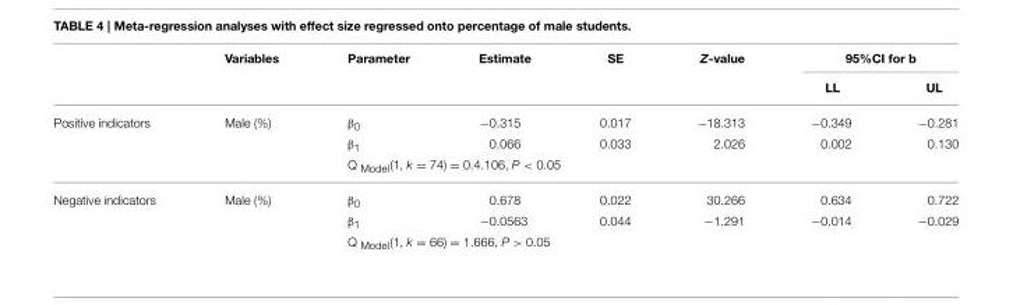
<table><thead><tr><td rowspan="2"></td><td rowspan="2">Variables</td><td rowspan="2">Parameter</td><td rowspan="2">Estimate</td><td rowspan="2">SE</td><td rowspan="2">Z-value</td><td colspan="2">95%CI for b</td></tr><tr><td>LL</td><td>UL</td></tr></thead><tbody><tr><td rowspan="3">Positive indicators</td><td>Male (%)</td><td>β<sub>0</sub></td><td>−0.315</td><td>0.017</td><td>−18.313</td><td>−0.349</td><td>−0.281</td></tr><tr><td></td><td>β<sub>1</sub></td><td>0.066</td><td>0.033</td><td>2.026</td><td>0.002</td><td>0.130</td></tr><tr><td></td><td colspan="6">Q <sub>Model</sub>(1, k = 74) = 0.4.106, P &lt; 0.05</td></tr><tr><td rowspan="3">Negative indicators</td><td>Male (%)</td><td>β<sub>0</sub></td><td>0.678</td><td>0.022</td><td>30.266</td><td>0.634</td><td>0.722</td></tr><tr><td></td><td>β<sub>1</sub></td><td>−0.0563</td><td>0.044</td><td>−1.291</td><td>−0.014</td><td>−0.029</td></tr><tr><td></td><td colspan="6">Q <sub>Model</sub>(1, k = 66) = 1.666, P &gt; 0.05</td></tr></tbody></table>